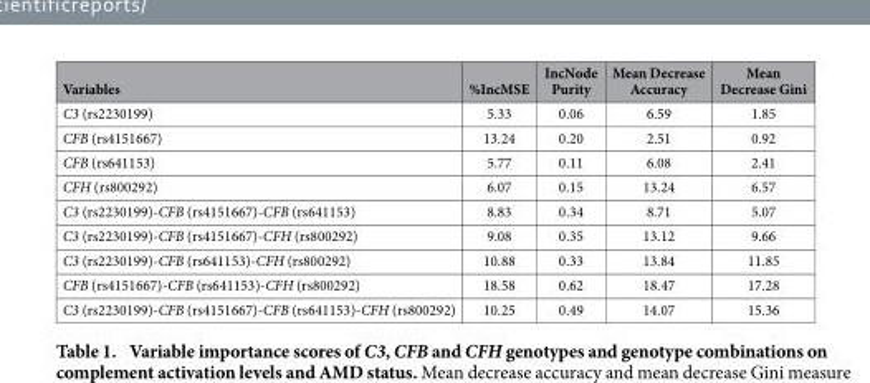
<table><thead><tr><td>Variables</td><td>%IncMSE</td><td>IncNode Purity</td><td>Mean Decrease Accuracy</td><td>Mean Decrease Gini</td></tr></thead><tbody><tr><td>C3 (rs2230199)</td><td>5.33</td><td>0.06</td><td>6.59</td><td>1.85</td></tr><tr><td>CFB (rs4151667)</td><td>13.24</td><td>0.20</td><td>2.51</td><td>0.92</td></tr><tr><td>CFB (rs641153)</td><td>5.77</td><td>0.11</td><td>6.08</td><td>2.41</td></tr><tr><td>CFH (rs800292)</td><td>6.07</td><td>0.15</td><td>13.24</td><td>6.57</td></tr><tr><td>C3 (rs2230199)-CFB (rs4151667)-CFB (rs641153)</td><td>8.83</td><td>0.34</td><td>8.71</td><td>5.07</td></tr><tr><td>C3 (rs2230199)-CFB (rs4151667)-CFH (rs800292)</td><td>9.08</td><td>0.35</td><td>13.12</td><td>9.66</td></tr><tr><td>C3 (rs2230199)-CFB (rs641153)-CFH (rs800292)</td><td>10.88</td><td>0.33</td><td>13.84</td><td>11.85</td></tr><tr><td>CFB (rs4151667)-CFB (rs641153)-CFH (rs800292)</td><td>18.58</td><td>0.62</td><td>18.47</td><td>17.28</td></tr><tr><td>C3 (rs2230199)-CFB (rs4151667)-CFB (rs641153)-CFH (rs800292)</td><td>10.25</td><td>0.49</td><td>14.07</td><td>15.36</td></tr></tbody></table>